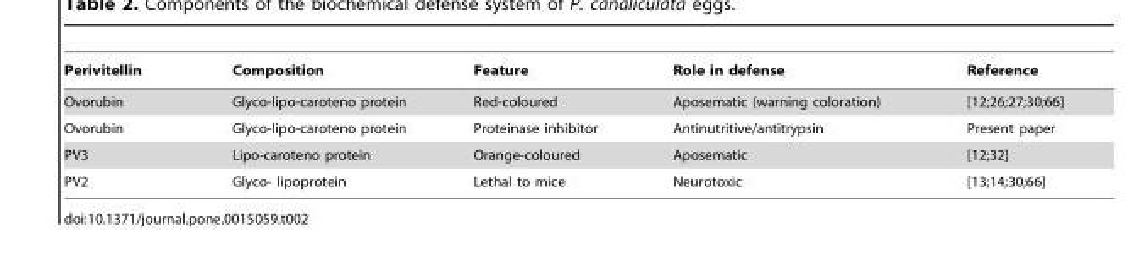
<table><thead><tr><td>Perivitellin</td><td>Composition</td><td>Feature</td><td>Role in defense</td><td>Reference</td></tr></thead><tbody><tr><td>Ovorubin</td><td>Glyco-lipo-caroteno protein</td><td>Red-coloured</td><td>Aposematic (warning coloration)</td><td>[12;26;27;30;66]</td></tr><tr><td>Ovorubin</td><td>Glyco-lipo-caroteno protein</td><td>Proteinase inhibitor</td><td>Antinutritive/antitrypsin</td><td>Present paper</td></tr><tr><td>PV3</td><td>Lipo-caroteno protein</td><td>Orange-coloured</td><td>Aposematic</td><td>[12;32]</td></tr><tr><td>PV2</td><td>Glyco- lipoprotein</td><td>Lethal to mice</td><td>Neurotoxic</td><td>[13;14;30;66]</td></tr></tbody></table>